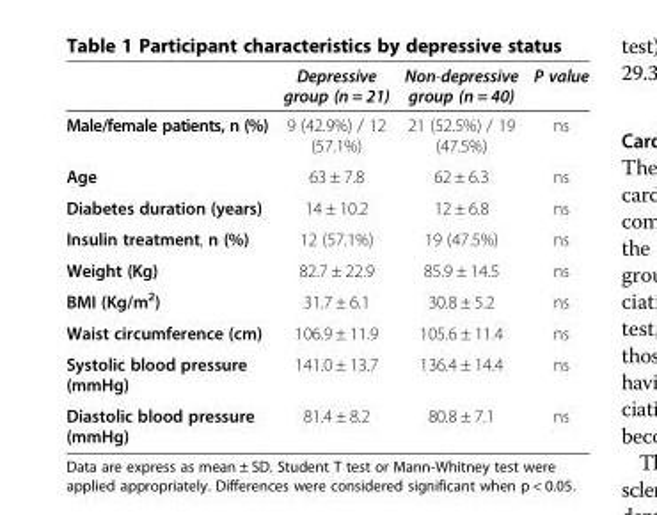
<table><thead><tr><td></td><td>Depressive group (n = 21)</td><td>Non-depressive group (n = 40)</td><td>P value</td></tr></thead><tbody><tr><td>Male/female patients, n (%)</td><td>9 (42.9%) / 12 (57.1%)</td><td>21 (52.5%) / 19 (47.5%)</td><td>ns</td></tr><tr><td>Age</td><td>63 ± 7.8</td><td>62 ± 6.3</td><td>ns</td></tr><tr><td>Diabetes duration (years)</td><td>14 ± 10.2</td><td>12 ± 6.8</td><td>ns</td></tr><tr><td>Insulin treatment, n (%)</td><td>12 (57.1%)</td><td>19 (47.5%)</td><td>ns</td></tr><tr><td>Weight (Kg)</td><td>82.7 ± 22.9</td><td>85.9 ± 14.5</td><td>ns</td></tr><tr><td>BMI (Kg/m<sup>2</sup>)</td><td>31.7 ± 6.1</td><td>30.8 ± 5.2</td><td>ns</td></tr><tr><td>Waist circumference (cm)</td><td>106.9 ± 11.9</td><td>105.6 ± 11.4</td><td>ns</td></tr><tr><td>Systolic blood pressure (mmHg)</td><td>141.0 ± 13.7</td><td>136.4 ± 14.4</td><td>ns</td></tr><tr><td>Diastolic blood pressure (mmHg)</td><td>81.4 ± 8.2</td><td>80.8 ± 7.1</td><td>ns</td></tr></tbody></table>